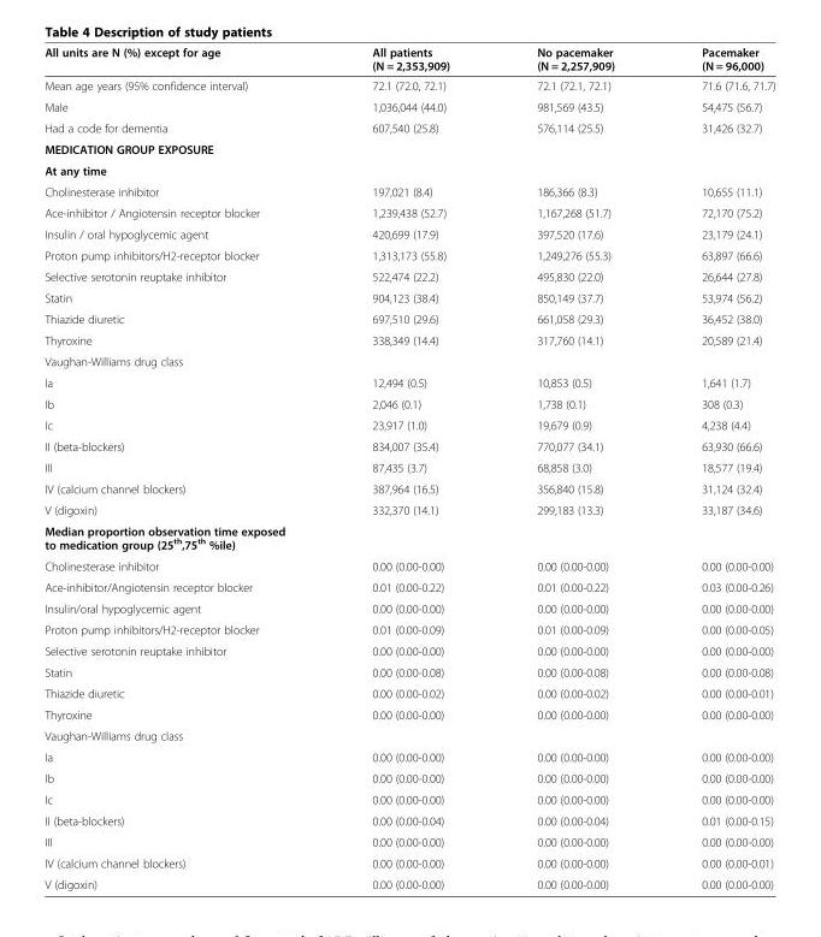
<table><thead><tr><td>All units are N (%) except for age</td><td>All patients (N = 2,353,909)</td><td>No pacemaker (N = 2,257,909)</td><td>Pacemaker (N = 96,000)</td></tr></thead><tbody><tr><td>Mean age years (95% confidence interval)</td><td>72.1 (72.0, 72.1)</td><td>72.1 (72.1, 72.1)</td><td>71.6 (71.6, 71.7)</td></tr><tr><td>Male</td><td>1,036,044 (44.0)</td><td>981,569 (43.5)</td><td>54,475 (56.7)</td></tr><tr><td>Had a code for dementia</td><td>607,540 (25.8)</td><td>576,114 (25.5)</td><td>31,426 (32.7)</td></tr><tr><td colspan="4">MEDICATION GROUP EXPOSURE</td></tr><tr><td colspan="4">At any time</td></tr><tr><td>Cholinesterase inhibitor</td><td>197,021 (8.4)</td><td>186,366 (8.3)</td><td>10,655 (11.1)</td></tr><tr><td>Ace-inhibitor / Angiotensin receptor blocker</td><td>1,239,438 (52.7)</td><td>1,167,268 (51.7)</td><td>72,170 (75.2)</td></tr><tr><td>Insulin / oral hypoglycemic agent</td><td>420,699 (17.9)</td><td>397,520 (17.6)</td><td>23,179 (24.1)</td></tr><tr><td>Proton pump inhibitors/H2-receptor blocker</td><td>1,313,173 (55.8)</td><td>1,249,276 (55.3)</td><td>63,897 (66.6)</td></tr><tr><td>Selective serotonin reuptake inhibitor</td><td>522,474 (22.2)</td><td>495,830 (22.0)</td><td>26,644 (27.8)</td></tr><tr><td>Statin</td><td>904,123 (38.4)</td><td>850,149 (37.7)</td><td>53,974 (56.2)</td></tr><tr><td>Thiazide diuretic</td><td>697,510 (29.6)</td><td>661,058 (29.3)</td><td>36,452 (38.0)</td></tr><tr><td>Thyroxine</td><td>338,349 (14.4)</td><td>317,760 (14.1)</td><td>20,589 (21.4)</td></tr><tr><td colspan="4">Vaughan-Williams drug class</td></tr><tr><td>Ia</td><td>12,494 (0.5)</td><td>10,853 (0.5)</td><td>1,641 (1.7)</td></tr><tr><td>Ib</td><td>2,046 (0.1)</td><td>1,738 (0.1)</td><td>308 (0.3)</td></tr><tr><td>Ic</td><td>23,917 (1.0)</td><td>19,679 (0.9)</td><td>4,238 (4.4)</td></tr><tr><td>II (beta-blockers)</td><td>834,007 (35.4)</td><td>770,077 (34.1)</td><td>63,930 (66.6)</td></tr><tr><td>III</td><td>87,435 (3.7)</td><td>68,858 (3.0)</td><td>18,577 (19.4)</td></tr><tr><td>IV (calcium channel blockers)</td><td>387,964 (16.5)</td><td>356,840 (15.8)</td><td>31,124 (32.4)</td></tr><tr><td>V (digoxin)</td><td>332,370 (14.1)</td><td>299,183 (13.3)</td><td>33,187 (34.6)</td></tr><tr><td colspan="4">Median proportion observation time exposed to medication group (25<sup>th</sup>,75<sup>th</sup> %ile)</td></tr><tr><td>Cholinesterase inhibitor</td><td>0.00 (0.00-0.00)</td><td>0.00 (0.00-0.00)</td><td>0.00 (0.00-0.00)</td></tr><tr><td>Ace-inhibitor/Angiotensin receptor blocker</td><td>0.01 (0.00-0.22)</td><td>0.01 (0.00-0.22)</td><td>0.03 (0.00-0.26)</td></tr><tr><td>Insulin/oral hypoglycemic agent</td><td>0.00 (0.00-0.00)</td><td>0.00 (0.00-0.00)</td><td>0.00 (0.00-0.00)</td></tr><tr><td>Proton pump inhibitors/H2-receptor blocker</td><td>0.01 (0.00-0.09)</td><td>0.01 (0.00-0.09)</td><td>0.00 (0.00-0.05)</td></tr><tr><td>Selective serotonin reuptake inhibitor</td><td>0.00 (0.00-0.00)</td><td>0.00 (0.00-0.00)</td><td>0.00 (0.00-0.00)</td></tr><tr><td>Statin</td><td>0.00 (0.00-0.08)</td><td>0.00 (0.00-0.08)</td><td>0.00 (0.00-0.08)</td></tr><tr><td>Thiazide diuretic</td><td>0.00 (0.00-0.02)</td><td>0.00 (0.00-0.02)</td><td>0.00 (0.00-0.01)</td></tr><tr><td>Thyroxine</td><td>0.00 (0.00-0.00)</td><td>0.00 (0.00-0.00)</td><td>0.00 (0.00-0.00)</td></tr><tr><td colspan="4">Vaughan-Williams drug class</td></tr><tr><td>Ia</td><td>0.00 (0.00-0.00)</td><td>0.00 (0.00-0.00)</td><td>0.00 (0.00-0.00)</td></tr><tr><td>Ib</td><td>0.00 (0.00-0.00)</td><td>0.00 (0.00-0.00)</td><td>0.00 (0.00-0.00)</td></tr><tr><td>Ic</td><td>0.00 (0.00-0.00)</td><td>0.00 (0.00-0.00)</td><td>0.00 (0.00-0.00)</td></tr><tr><td>II (beta-blockers)</td><td>0.00 (0.00-0.04)</td><td>0.00 (0.00-0.04)</td><td>0.01 (0.00-0.15)</td></tr><tr><td>III</td><td>0.00 (0.00-0.00)</td><td>0.00 (0.00-0.00)</td><td>0.00 (0.00-0.00)</td></tr><tr><td>IV (calcium channel blockers)</td><td>0.00 (0.00-0.00)</td><td>0.00 (0.00-0.00)</td><td>0.00 (0.00-0.01)</td></tr><tr><td>V (digoxin)</td><td>0.00 (0.00-0.00)</td><td>0.00 (0.00-0.00)</td><td>0.00 (0.00-0.00)</td></tr></tbody></table>